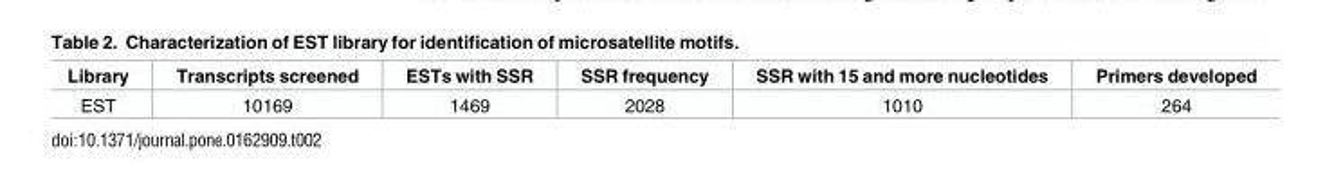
<table><thead><tr><td>Library</td><td>Transcripts screened</td><td>ESTs with SSR</td><td>SSR frequency</td><td>SSR with 15 and more nucleotides</td><td>Primers developed</td></tr></thead><tbody><tr><td>EST</td><td>10169</td><td>1469</td><td>2028</td><td>1010</td><td>264</td></tr></tbody></table>